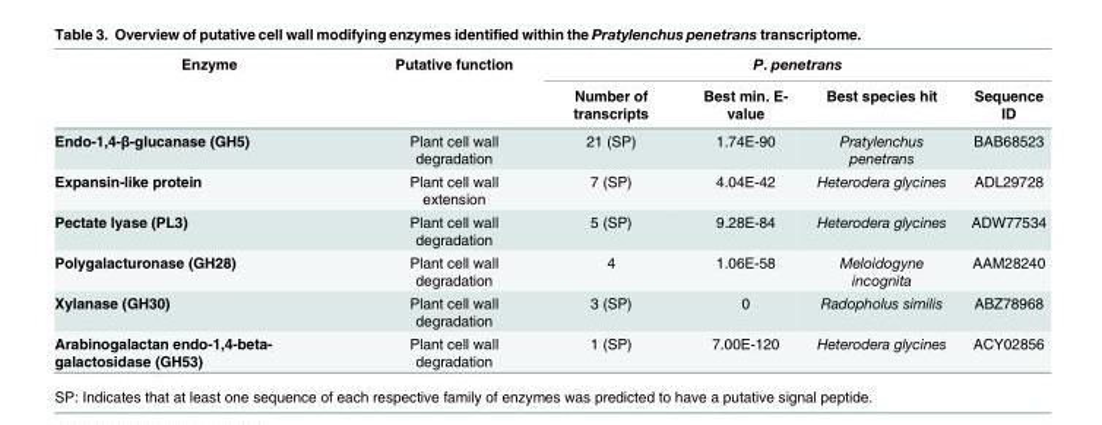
<table><thead><tr><td rowspan="2">Enzyme</td><td rowspan="2">Putative function</td><td colspan="4">P. penetrans</td></tr><tr><td>Number of transcripts</td><td>Best min. E- value</td><td>Best species hit</td><td>Sequence ID</td></tr></thead><tbody><tr><td>Endo-1,4-β-glucanase (GH5)</td><td>Plant cell wall degradation</td><td>21 (SP)</td><td>1.74E-90</td><td>Pratylenchus penetrans</td><td>BAB68523</td></tr><tr><td>Expansin-like protein</td><td>Plant cell wall extension</td><td>7 (SP)</td><td>4.04E-42</td><td>Heterodera glycines</td><td>ADL29728</td></tr><tr><td>Pectate lyase (PL3)</td><td>Plant cell wall degradation</td><td>5 (SP)</td><td>9.28E-84</td><td>Heterodera glycines</td><td>ADW77534</td></tr><tr><td>Polygalacturonase (GH28)</td><td>Plant cell wall degradation</td><td>4</td><td>1.06E-58</td><td>Meloidogyne incognita</td><td>AAM28240</td></tr><tr><td>Xylanase (GH30)</td><td>Plant cell wall degradation</td><td>3 (SP)</td><td>0</td><td>Radopholus similis</td><td>ABZ78968</td></tr><tr><td>Arabinogalactan endo-1,4-beta- galactosidase (GH53)</td><td>Plant cell wall degradation</td><td>1 (SP)</td><td>7.00E-120</td><td>Heterodera glycines</td><td>ACY02856</td></tr></tbody></table>